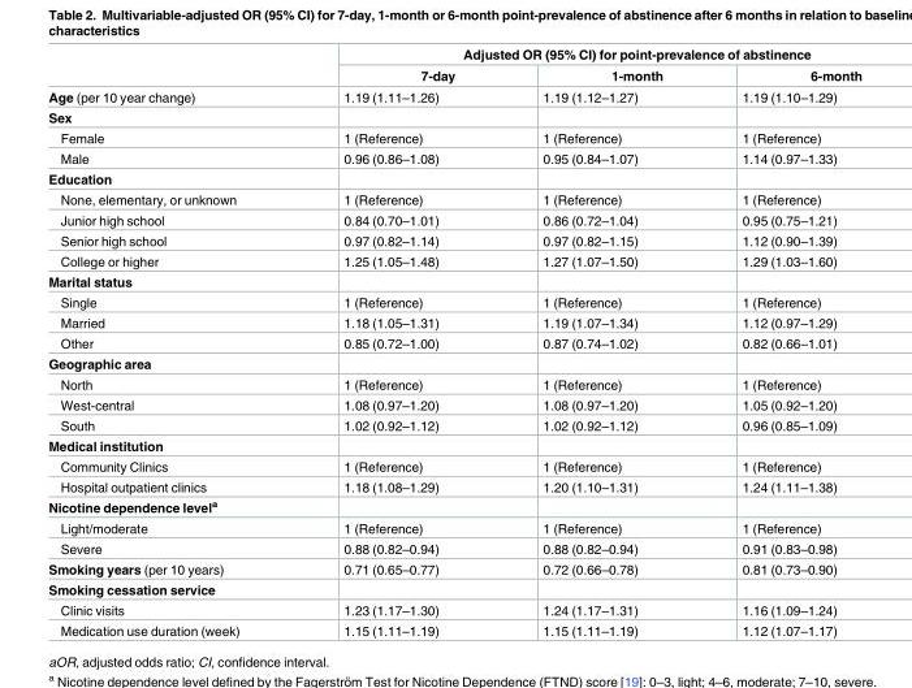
<table><thead><tr><td rowspan="2"></td><td colspan="3">Adjusted OR (95% CI) for point-prevalence of abstinence</td></tr><tr><td>7-day</td><td>1-month</td><td>6-month</td></tr></thead><tbody><tr><td>Age (per 10 year change)</td><td>1.19 (1.11–1.26)</td><td>1.19 (1.12–1.27)</td><td>1.19 (1.10–1.29)</td></tr><tr><td colspan="4">Sex</td></tr><tr><td>Female</td><td>1 (Reference)</td><td>1 (Reference)</td><td>1 (Reference)</td></tr><tr><td>Male</td><td>0.96 (0.86–1.08)</td><td>0.95 (0.84–1.07)</td><td>1.14 (0.97–1.33)</td></tr><tr><td colspan="4">Education</td></tr><tr><td>None, elementary, or unknown</td><td>1 (Reference)</td><td>1 (Reference)</td><td>1 (Reference)</td></tr><tr><td>Junior high school</td><td>0.84 (0.70–1.01)</td><td>0.86 (0.72–1.04)</td><td>0.95 (0.75–1.21)</td></tr><tr><td>Senior high school</td><td>0.97 (0.82–1.14)</td><td>0.97 (0.82–1.15)</td><td>1.12 (0.90–1.39)</td></tr><tr><td>College or higher</td><td>1.25 (1.05–1.48)</td><td>1.27 (1.07–1.50)</td><td>1.29 (1.03–1.60)</td></tr><tr><td colspan="4">Marital status</td></tr><tr><td>Single</td><td>1 (Reference)</td><td>1 (Reference)</td><td>1 (Reference)</td></tr><tr><td>Married</td><td>1.18 (1.05–1.31)</td><td>1.19 (1.07–1.34)</td><td>1.12 (0.97–1.29)</td></tr><tr><td>Other</td><td>0.85 (0.72–1.00)</td><td>0.87 (0.74–1.02)</td><td>0.82 (0.66–1.01)</td></tr><tr><td colspan="4">Geographic area</td></tr><tr><td>North</td><td>1 (Reference)</td><td>1 (Reference)</td><td>1 (Reference)</td></tr><tr><td>West-central</td><td>1.08 (0.97–1.20)</td><td>1.08 (0.97–1.20)</td><td>1.05 (0.92–1.20)</td></tr><tr><td>South</td><td>1.02 (0.92–1.12)</td><td>1.02 (0.92–1.12)</td><td>0.96 (0.85–1.09)</td></tr><tr><td colspan="4">Medical institution</td></tr><tr><td>Community Clinics</td><td>1 (Reference)</td><td>1 (Reference)</td><td>1 (Reference)</td></tr><tr><td>Hospital outpatient clinics</td><td>1.18 (1.08–1.29)</td><td>1.20 (1.10–1.31)</td><td>1.24 (1.11–1.38)</td></tr><tr><td colspan="4">Nicotine dependence level<sup>a</sup></td></tr><tr><td>Light/moderate</td><td>1 (Reference)</td><td>1 (Reference)</td><td>1 (Reference)</td></tr><tr><td>Severe</td><td>0.88 (0.82–0.94)</td><td>0.88 (0.82–0.94)</td><td>0.91 (0.83–0.98)</td></tr><tr><td>Smoking years (per 10 years)</td><td>0.71 (0.65–0.77)</td><td>0.72 (0.66–0.78)</td><td>0.81 (0.73–0.90)</td></tr><tr><td colspan="4">Smoking cessation service</td></tr><tr><td>Clinic visits</td><td>1.23 (1.17–1.30)</td><td>1.24 (1.17–1.31)</td><td>1.16 (1.09–1.24)</td></tr><tr><td>Medication use duration (week)</td><td>1.15 (1.11–1.19)</td><td>1.15 (1.11–1.19)</td><td>1.12 (1.07–1.17)</td></tr></tbody></table>